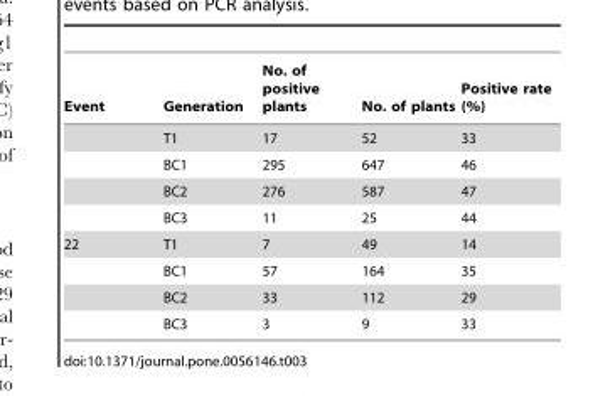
<table><thead><tr><td>Event</td><td>Generation</td><td>No. of positive plants</td><td>No. of plants</td><td>Positive rate (%)</td></tr></thead><tbody><tr><td></td><td>T1</td><td>17</td><td>52</td><td>33</td></tr><tr><td></td><td>BC1</td><td>295</td><td>647</td><td>46</td></tr><tr><td></td><td>BC2</td><td>276</td><td>587</td><td>47</td></tr><tr><td></td><td>BC3</td><td>11</td><td>25</td><td>44</td></tr><tr><td rowspan="4">22</td><td>T1</td><td>7</td><td>49</td><td>14</td></tr><tr><td>BC1</td><td>57</td><td>164</td><td>35</td></tr><tr><td>BC2</td><td>33</td><td>112</td><td>29</td></tr><tr><td>BC3</td><td>3</td><td>9</td><td>33</td></tr></tbody></table>